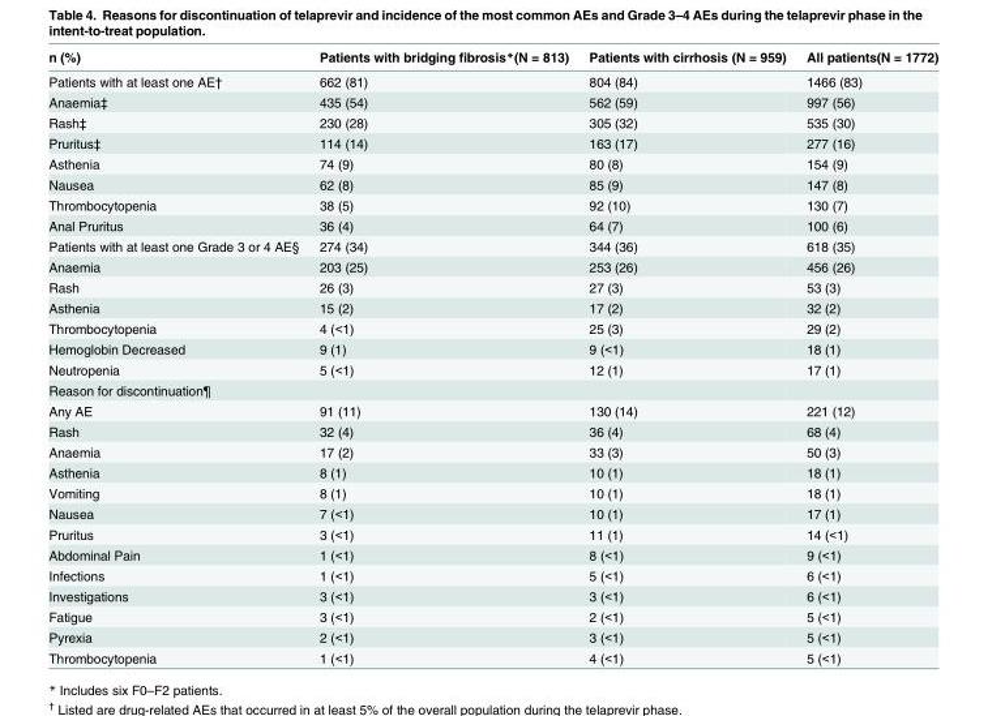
<table><thead><tr><td>n (%)</td><td>Patients with bridging fibrosis*(N = 813)</td><td>Patients with cirrhosis (N = 959)</td><td>All patients(N = 1772)</td></tr></thead><tbody><tr><td>Patients with at least one AE†</td><td>662 (81)</td><td>804 (84)</td><td>1466 (83)</td></tr><tr><td>Anaemia‡</td><td>435 (54)</td><td>562 (59)</td><td>997 (56)</td></tr><tr><td>Rash‡</td><td>230 (28)</td><td>305 (32)</td><td>535 (30)</td></tr><tr><td>Pruritus‡</td><td>114 (14)</td><td>163 (17)</td><td>277 (16)</td></tr><tr><td>Asthenia</td><td>74 (9)</td><td>80 (8)</td><td>154 (9)</td></tr><tr><td>Nausea</td><td>62 (8)</td><td>85 (9)</td><td>147 (8)</td></tr><tr><td>Thrombocytopenia</td><td>38 (5)</td><td>92 (10)</td><td>130 (7)</td></tr><tr><td>Anal Pruritus</td><td>36 (4)</td><td>64 (7)</td><td>100 (6)</td></tr><tr><td>Patients with at least one Grade 3 or 4 AE§</td><td>274 (34)</td><td>344 (36)</td><td>618 (35)</td></tr><tr><td>Anaemia</td><td>203 (25)</td><td>253 (26)</td><td>456 (26)</td></tr><tr><td>Rash</td><td>26 (3)</td><td>27 (3)</td><td>53 (3)</td></tr><tr><td>Asthenia</td><td>15 (2)</td><td>17 (2)</td><td>32 (2)</td></tr><tr><td>Thrombocytopenia</td><td>4 (&lt;1)</td><td>25 (3)</td><td>29 (2)</td></tr><tr><td>Hemoglobin Decreased</td><td>9 (1)</td><td>9 (&lt;1)</td><td>18 (1)</td></tr><tr><td>Neutropenia</td><td>5 (&lt;1)</td><td>12 (1)</td><td>17 (1)</td></tr><tr><td colspan="4">Reason for discontinuation¶</td></tr><tr><td>Any AE</td><td>91 (11)</td><td>130 (14)</td><td>221 (12)</td></tr><tr><td>Rash</td><td>32 (4)</td><td>36 (4)</td><td>68 (4)</td></tr><tr><td>Anaemia</td><td>17 (2)</td><td>33 (3)</td><td>50 (3)</td></tr><tr><td>Asthenia</td><td>8 (1)</td><td>10 (1)</td><td>18 (1)</td></tr><tr><td>Vomiting</td><td>8 (1)</td><td>10 (1)</td><td>18 (1)</td></tr><tr><td>Nausea</td><td>7 (&lt;1)</td><td>10 (1)</td><td>17 (1)</td></tr><tr><td>Pruritus</td><td>3 (&lt;1)</td><td>11 (1)</td><td>14 (&lt;1)</td></tr><tr><td>Abdominal Pain</td><td>1 (&lt;1)</td><td>8 (&lt;1)</td><td>9 (&lt;1)</td></tr><tr><td>Infections</td><td>1 (&lt;1)</td><td>5 (&lt;1)</td><td>6 (&lt;1)</td></tr><tr><td>Investigations</td><td>3 (&lt;1)</td><td>3 (&lt;1)</td><td>6 (&lt;1)</td></tr><tr><td>Fatigue</td><td>3 (&lt;1)</td><td>2 (&lt;1)</td><td>5 (&lt;1)</td></tr><tr><td>Pyrexia</td><td>2 (&lt;1)</td><td>3 (&lt;1)</td><td>5 (&lt;1)</td></tr><tr><td>Thrombocytopenia</td><td>1 (&lt;1)</td><td>4 (&lt;1)</td><td>5 (&lt;1)</td></tr></tbody></table>